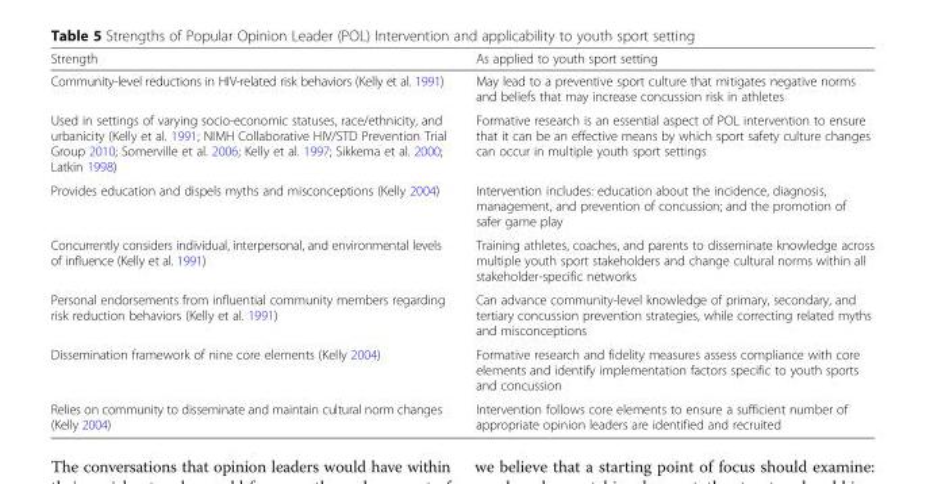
<table><thead><tr><td>Strength</td><td>As applied to youth sport setting</td></tr></thead><tbody><tr><td>Community-level reductions in HIV-related risk behaviors (Kelly et al. 1991)</td><td>May lead to a preventive sport culture that mitigates negative norms and beliefs that may increase concussion risk in athletes</td></tr><tr><td>Used in settings of varying socio-economic statuses, race/ethnicity, and urbanicity (Kelly et al. 1991; NIMH Collaborative HIV/STD Prevention Trial Group 2010; Somerville et al. 2006; Kelly et al. 1997; Sikkema et al. 2000; Latkin 1998)</td><td>Formative research is an essential aspect of POL intervention to ensure that it can be an effective means by which sport safety culture changes can occur in multiple youth sport settings</td></tr><tr><td>Provides education and dispels myths and misconceptions (Kelly 2004)</td><td>Intervention includes: education about the incidence, diagnosis, management, and prevention of concussion; and the promotion of safer game play</td></tr><tr><td>Concurrently considers individual, interpersonal, and environmental levels of influence (Kelly et al. 1991)</td><td>Training athletes, coaches, and parents to disseminate knowledge across multiple youth sport stakeholders and change cultural norms within all stakeholder-specific networks</td></tr><tr><td>Personal endorsements from influential community members regarding risk reduction behaviors (Kelly et al. 1991)</td><td>Can advance community-level knowledge of primary, secondary, and tertiary concussion prevention strategies, while correcting related myths and misconceptions</td></tr><tr><td>Dissemination framework of nine core elements (Kelly 2004)</td><td>Formative research and fidelity measures assess compliance with core elements and identify implementation factors specific to youth sports and concussion</td></tr><tr><td>Relies on community to disseminate and maintain cultural norm changes (Kelly 2004)</td><td>Intervention follows core elements to ensure a sufficient number of appropriate opinion leaders are identified and recruited</td></tr></tbody></table>